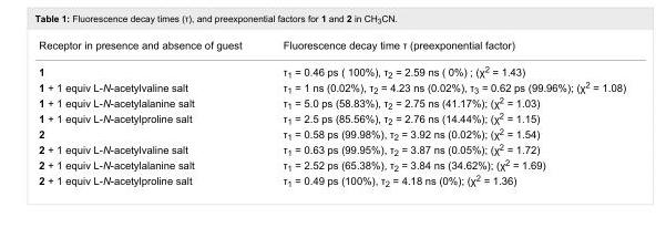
<table><tbody><tr><td>Receptor in presence and absence of guest</td><td>Fluorescence decay time τ (preexponential factor)</td></tr><tr><td>1</td><td>τ<sub>1</sub> = 0.46 ps ( 100%), τ<sub>2</sub> = 2.59 ns ( 0%) ; (χ<sup>2</sup> = 1.43)</td></tr><tr><td>1 + 1 equiv L-N-acetylvaline salt</td><td>τ<sub>1</sub> = 1 ns (0.02%), τ<sub>2</sub> = 4.23 ns (0.02%), τ<sub>3</sub> = 0.62 ps (99.96%); (χ<sup>2</sup> = 1.08)</td></tr><tr><td>1 + 1 equiv L-N-acetylalanine salt</td><td>τ<sub>1</sub> = 5.0 ps (58.83%), τ<sub>2</sub> = 2.75 ns (41.17%); (χ<sup>2</sup> = 1.03)</td></tr><tr><td>1 + 1 equiv L-N-acetylproline salt</td><td>τ<sub>1</sub> = 2.5 ps (85.56%), τ<sub>2</sub> = 2.76 ns (14.44%); (χ<sup>2</sup> = 1.15)</td></tr><tr><td>2</td><td>τ<sub>1</sub> = 0.58 ps (99.98%), τ<sub>2</sub> = 3.92 ns (0.02%); (χ<sup>2</sup> = 1.54)</td></tr><tr><td>2 + 1 equiv L-N-acetylvaline salt</td><td>τ<sub>1</sub> = 0.63 ps (99.95%), τ<sub>2</sub> = 3.87 ns (0.05%); (χ<sup>2</sup> = 1.72)</td></tr><tr><td>2 + 1 equiv L-N-acetylalanine salt</td><td>τ<sub>1</sub> = 2.52 ps (65.38%), τ<sub>2</sub> = 3.84 ns (34.62%); (χ<sup>2</sup> = 1.69)</td></tr><tr><td>2 + 1 equiv L-N-acetylproline salt</td><td>τ<sub>1</sub> = 0.49 ps (100%), τ<sub>2</sub> = 4.18 ns (0%); (χ<sup>2</sup> = 1.36)</td></tr></tbody></table>